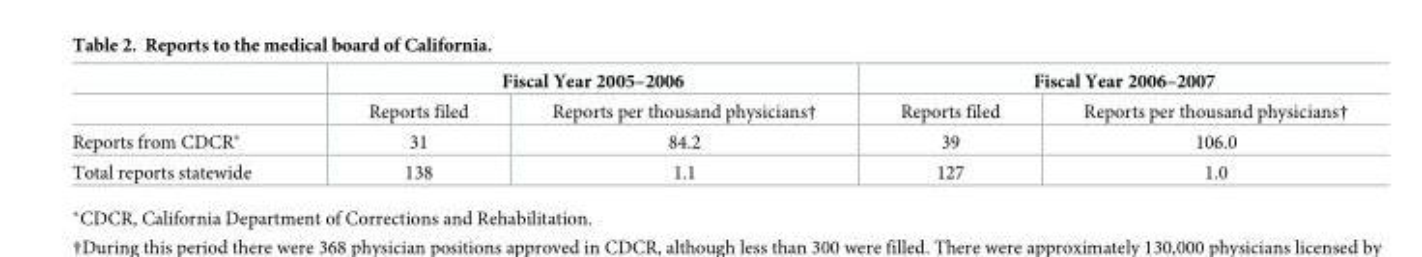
<table><thead><tr><td rowspan="2"></td><td colspan="2">Fiscal Year 2005–2006</td><td colspan="2">Fiscal Year 2006–2007</td></tr><tr><td>Reports filed</td><td>Reports per thousand physicians†</td><td>Reports filed</td><td>Reports per thousand physicians†</td></tr></thead><tbody><tr><td>Reports from CDCR*</td><td>31</td><td>84.2</td><td>39</td><td>106.0</td></tr><tr><td>Total reports statewide</td><td>138</td><td>1.1</td><td>127</td><td>1.0</td></tr></tbody></table>